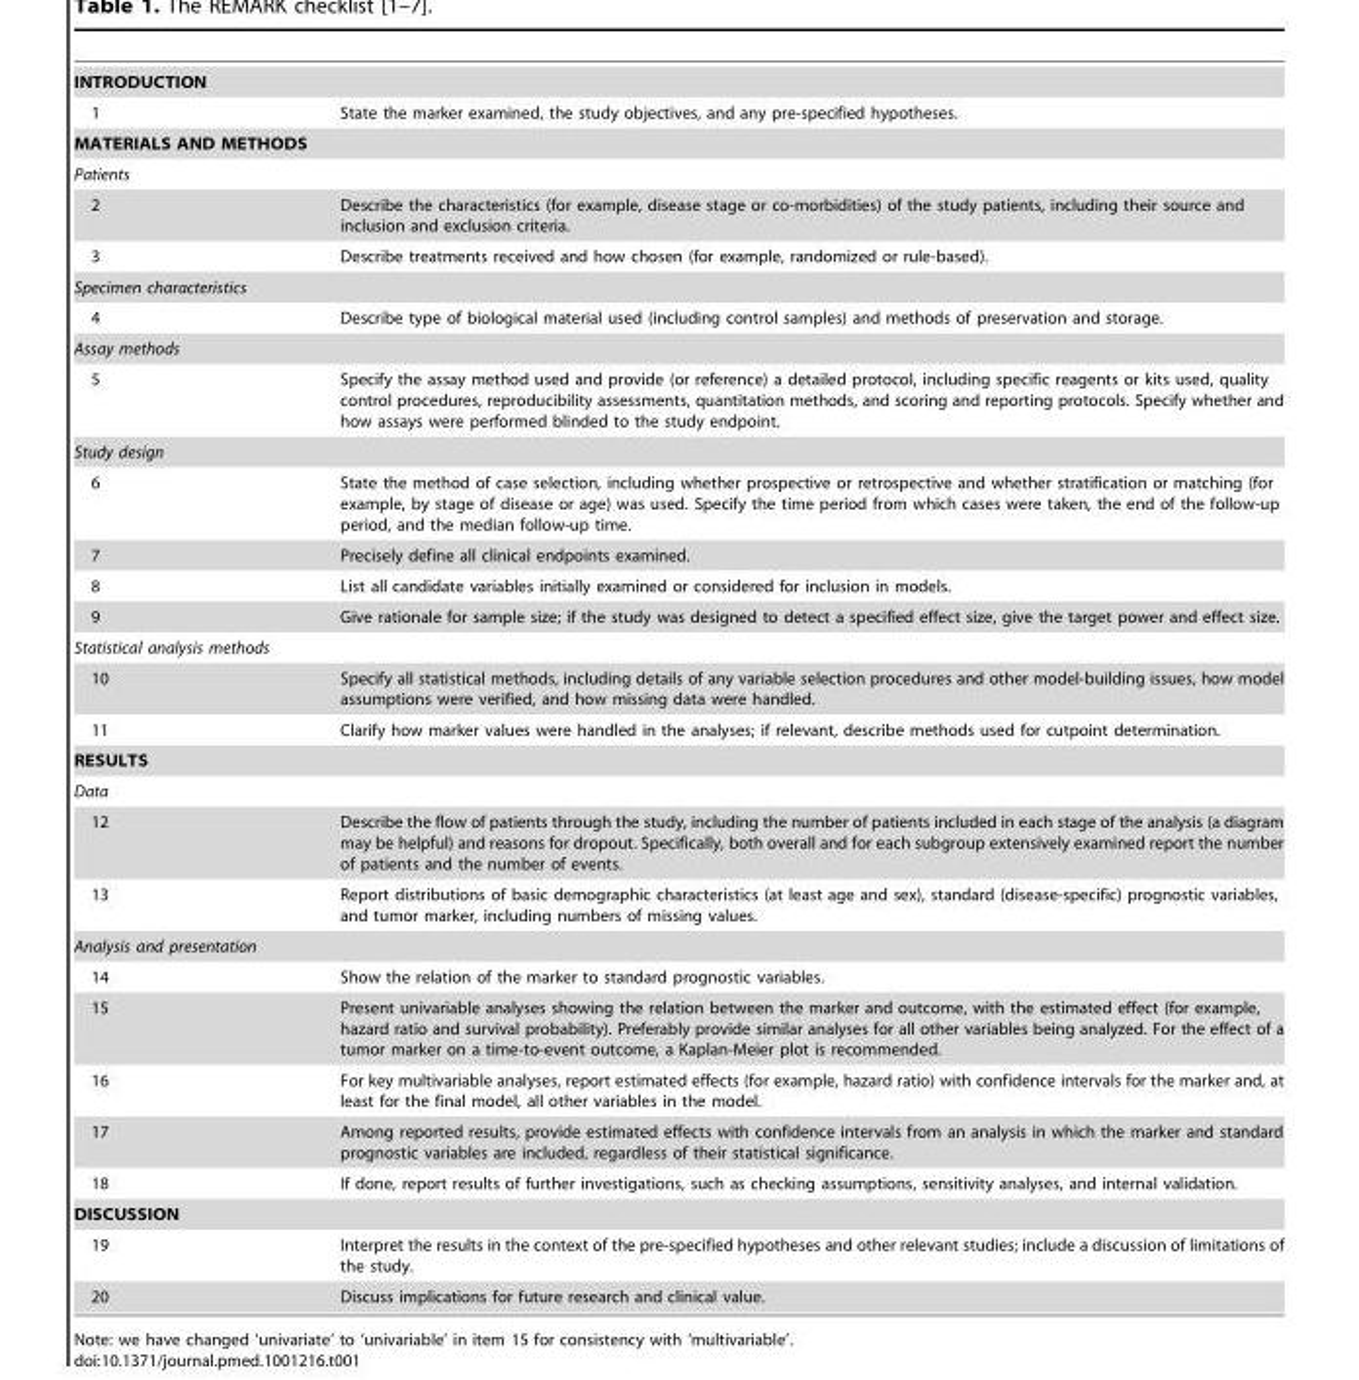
<table><tbody><tr><td colspan="2">INTRODUCTION</td></tr><tr><td>1</td><td>State the marker examined, the study objectives, and any pre-specified hypotheses.</td></tr><tr><td colspan="2">MATERIALS AND METHODS</td></tr><tr><td colspan="2">Patients</td></tr><tr><td>2</td><td>Describe the characteristics (for example, disease stage or co-morbidities) of the study patients, including their source and inclusion and exclusion criteria.</td></tr><tr><td>3</td><td>Describe treatments received and how chosen (for example, randomized or rule-based).</td></tr><tr><td colspan="2">Specimen characteristics</td></tr><tr><td>4</td><td>Describe type of biological material used (including control samples) and methods of preservation and storage.</td></tr><tr><td colspan="2">Assay methods</td></tr><tr><td>5</td><td>Specify the assay method used and provide (or reference) a detailed protocol, including specific reagents or kits used, quality control procedures, reproducibility assessments, quantitation methods, and scoring and reporting protocols. Specify whether and how assays were performed blinded to the study endpoint.</td></tr><tr><td colspan="2">Study design</td></tr><tr><td>6</td><td>State the method of case selection, including whether prospective or retrospective and whether stratification or matching (for example, by stage of disease or age) was used. Specify the time period from which cases were taken, the end of the follow-up period, and the median follow-up time.</td></tr><tr><td>7</td><td>Precisely define all clinical endpoints examined.</td></tr><tr><td>8</td><td>List all candidate variables initially examined or considered for inclusion in models.</td></tr><tr><td>9</td><td>Give rationale for sample size; if the study was designed to detect a specified effect size, give the target power and effect size.</td></tr><tr><td colspan="2">Statistical analysis methods</td></tr><tr><td>10</td><td>Specify all statistical methods, including details of any variable selection procedures and other model-building issues, how model assumptions were verified, and how missing data were handled.</td></tr><tr><td>11</td><td>Clarify how marker values were handled in the analyses; if relevant, describe methods used for cutpoint determination.</td></tr><tr><td colspan="2">RESULTS</td></tr><tr><td colspan="2">Data</td></tr><tr><td>12</td><td>Describe the flow of patients through the study, including the number of patients included in each stage of the analysis (a diagram may be helpful) and reasons for dropout. Specifically, both overall and for each subgroup extensively examined report the number of patients and the number of events.</td></tr><tr><td>13</td><td>Report distributions of basic demographic characteristics (at least age and sex), standard (disease-specific) prognostic variables, and tumor marker, including numbers of missing values.</td></tr><tr><td colspan="2">Analysis and presentation</td></tr><tr><td>14</td><td>Show the relation of the marker to standard prognostic variables.</td></tr><tr><td>15</td><td>Present univariable analyses showing the relation between the marker and outcome, with the estimated effect (for example, hazard ratio and survival probability). Preferably provide similar analyses for all other variables being analyzed. For the effect of a tumor marker on a time-to-event outcome, a Kaplan-Meier plot is recommended.</td></tr><tr><td>16</td><td>For key multivariable analyses, report estimated effects (for example, hazard ratio) with confidence intervals for the marker and, at least for the final model, all other variables in the model.</td></tr><tr><td>17</td><td>Among reported results, provide estimated effects with confidence intervals from an analysis in which the marker and standard prognostic variables are included, regardless of their statistical significance.</td></tr><tr><td>18</td><td>If done, report results of further investigations, such as checking assumptions, sensitivity analyses, and internal validation.</td></tr><tr><td colspan="2">DISCUSSION</td></tr><tr><td>19</td><td>Interpret the results in the context of the pre-specified hypotheses and other relevant studies; include a discussion of limitations of the study.</td></tr><tr><td>20</td><td>Discuss implications for future research and clinical value.</td></tr></tbody></table>